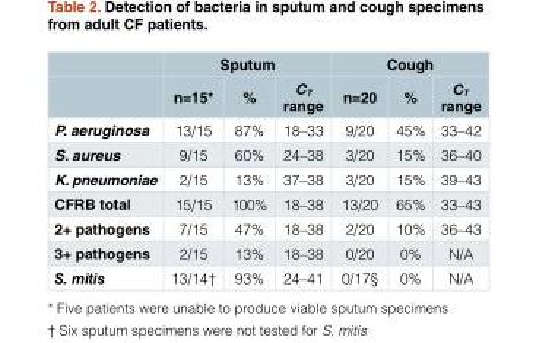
<table><thead><tr><td rowspan="2"></td><td colspan="3">Sputum</td><td colspan="3">Cough</td></tr><tr><td>n=15*</td><td>%</td><td>C<sub>T</sub> range</td><td>n=20</td><td>%</td><td>C<sub>T</sub> range</td></tr></thead><tbody><tr><td>P. aeruginosa</td><td>13/15</td><td>87%</td><td>18–33</td><td>9/20</td><td>45%</td><td>33–42</td></tr><tr><td>S. aureus</td><td>9/15</td><td>60%</td><td>24–38</td><td>3/20</td><td>15%</td><td>36–40</td></tr><tr><td>K. pneumoniae</td><td>2/15</td><td>13%</td><td>37–38</td><td>3/20</td><td>15%</td><td>39–43</td></tr><tr><td>CFRB total</td><td>15/15</td><td>100%</td><td>18–38</td><td>13/20</td><td>65%</td><td>33–43</td></tr><tr><td>2+ pathogens</td><td>7/15</td><td>47%</td><td>18–38</td><td>2/20</td><td>10%</td><td>36–43</td></tr><tr><td>3+ pathogens</td><td>2/15</td><td>13%</td><td>18–38</td><td>0/20</td><td>0%</td><td>N/A</td></tr><tr><td>S. mitis</td><td>13/14†</td><td>93%</td><td>24–41</td><td>0/17§</td><td>0%</td><td>N/A</td></tr></tbody></table>